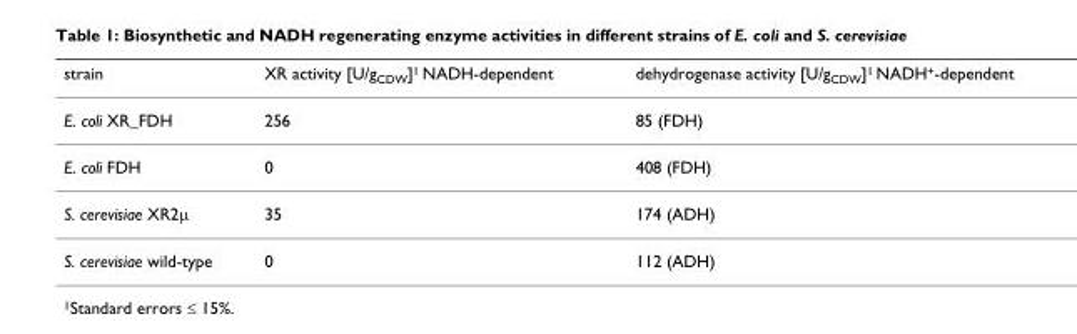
<table><thead><tr><td>strain</td><td>XR activity [U/g<sub>CDW</sub>]<sup>1</sup> NADH-dependent</td><td>dehydrogenase activity [U/g<sub>CDW</sub>]<sup>1</sup> NADH<sup>+</sup>-dependent</td></tr></thead><tbody><tr><td>E. coli XR_FDH</td><td>256</td><td>85 (FDH)</td></tr><tr><td>E. coli FDH</td><td>0</td><td>408 (FDH)</td></tr><tr><td>S. cerevisiae XR2μ</td><td>35</td><td>174 (ADH)</td></tr><tr><td>S. cerevisiae wild-type</td><td>0</td><td>112 (ADH)</td></tr></tbody></table>